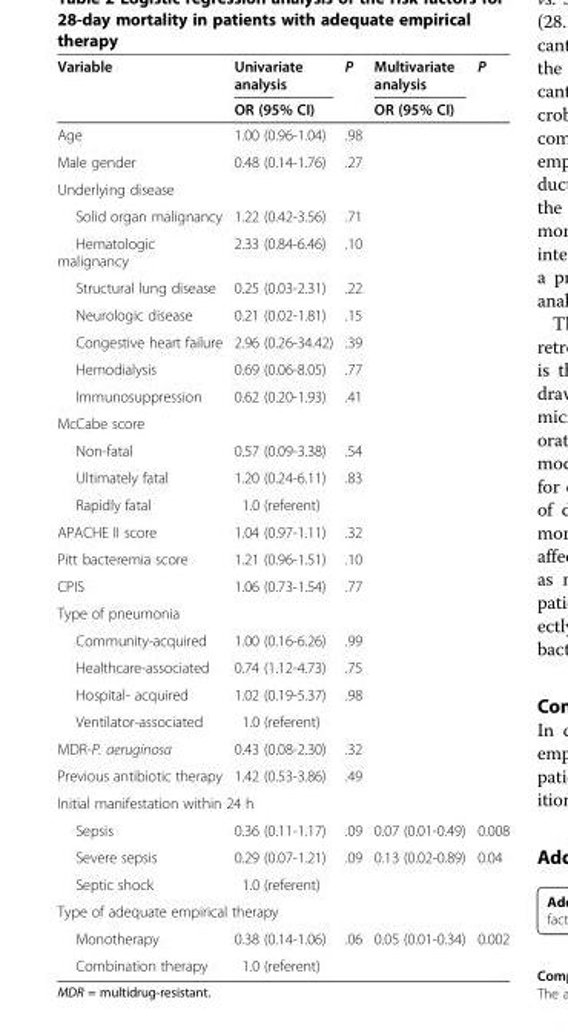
<table><thead><tr><td rowspan="2">Variable</td><td rowspan="2">Univariate analysis OR (95% CI)</td><td rowspan="2">P</td><td rowspan="2">Multivariate analysis OR (95% CI)</td><td rowspan="2">P</td></tr><tr></tr></thead><tbody><tr><td>Age</td><td>1.00 (0.96-1.04)</td><td>.98</td><td></td><td></td></tr><tr><td>Male gender</td><td>0.48 (0.14-1.76)</td><td>.27</td><td></td><td></td></tr><tr><td colspan="5">Underlying disease</td></tr><tr><td>Solid organ malignancy</td><td>1.22 (0.42-3.56)</td><td>.71</td><td></td><td></td></tr><tr><td>Hematologic malignancy</td><td>2.33 (0.84-6.46)</td><td>.10</td><td></td><td></td></tr><tr><td>Structural lung disease</td><td>0.25 (0.03-2.31)</td><td>.22</td><td></td><td></td></tr><tr><td>Neurologic disease</td><td>0.21 (0.02-1.81)</td><td>.15</td><td></td><td></td></tr><tr><td>Congestive heart failure</td><td>2.96 (0.26-34.42)</td><td>.39</td><td></td><td></td></tr><tr><td>Hemodialysis</td><td>0.69 (0.06-8.05)</td><td>.77</td><td></td><td></td></tr><tr><td>Immunosuppression</td><td>0.62 (0.20-1.93)</td><td>.41</td><td></td><td></td></tr><tr><td colspan="5">McCabe score</td></tr><tr><td>Non-fatal</td><td>0.57 (0.09-3.38)</td><td>.54</td><td></td><td></td></tr><tr><td>Ultimately fatal</td><td>1.20 (0.24-6.11)</td><td>.83</td><td></td><td></td></tr><tr><td>Rapidly fatal</td><td>1.0 (referent)</td><td></td><td></td><td></td></tr><tr><td>APACHE II score</td><td>1.04 (0.97-1.11)</td><td>.32</td><td></td><td></td></tr><tr><td>Pitt bacteremia score</td><td>1.21 (0.96-1.51)</td><td>.10</td><td></td><td></td></tr><tr><td>CPIS</td><td>1.06 (0.73-1.54)</td><td>.77</td><td></td><td></td></tr><tr><td colspan="5">Type of pneumonia</td></tr><tr><td>Community-acquired</td><td>1.00 (0.16-6.26)</td><td>.99</td><td></td><td></td></tr><tr><td>Healthcare-associated</td><td>0.74 (1.12-4.73)</td><td>.75</td><td></td><td></td></tr><tr><td>Hospital- acquired</td><td>1.02 (0.19-5.37)</td><td>.98</td><td></td><td></td></tr><tr><td>Ventilator-associated</td><td>1.0 (referent)</td><td></td><td></td><td></td></tr><tr><td>MDR-P. aeruginosa</td><td>0.43 (0.08-2.30)</td><td>.32</td><td></td><td></td></tr><tr><td>Previous antibiotic therapy</td><td>1.42 (0.53-3.86)</td><td>.49</td><td></td><td></td></tr><tr><td colspan="5">Initial manifestation within 24 h</td></tr><tr><td>Sepsis</td><td>0.36 (0.11-1.17)</td><td>.09</td><td>0.07 (0.01-0.49)</td><td>0.008</td></tr><tr><td>Severe sepsis</td><td>0.29 (0.07-1.21)</td><td>.09</td><td>0.13 (0.02-0.89)</td><td>0.04</td></tr><tr><td>Septic shock</td><td>1.0 (referent)</td><td></td><td></td><td></td></tr><tr><td colspan="5">Type of adequate empirical therapy</td></tr><tr><td>Monotherapy</td><td>0.38 (0.14-1.06)</td><td>.06</td><td>0.05 (0.01-0.34)</td><td>0.002</td></tr><tr><td>Combination therapy</td><td>1.0 (referent)</td><td></td><td></td><td></td></tr></tbody></table>